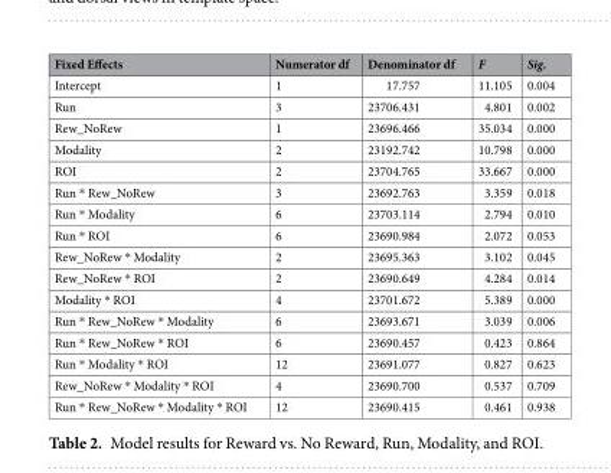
<table><thead><tr><td>Fixed Effects</td><td>Numerator df</td><td>Denominator df</td><td>F</td><td>Sig.</td></tr></thead><tbody><tr><td>Intercept</td><td>1</td><td>17.757</td><td>11.105</td><td>0.004</td></tr><tr><td>Run</td><td>3</td><td>23706.431</td><td>4.801</td><td>0.002</td></tr><tr><td>Rew_NoRew</td><td>1</td><td>23696.466</td><td>35.034</td><td>0.000</td></tr><tr><td>Modality</td><td>2</td><td>23192.742</td><td>10.798</td><td>0.000</td></tr><tr><td>ROI</td><td>2</td><td>23704.765</td><td>33.667</td><td>0.000</td></tr><tr><td>Run * Rew_NoRew</td><td>3</td><td>23692.763</td><td>3.359</td><td>0.018</td></tr><tr><td>Run * Modality</td><td>6</td><td>23703.114</td><td>2.794</td><td>0.010</td></tr><tr><td>Run * ROI</td><td>6</td><td>23690.984</td><td>2.072</td><td>0.053</td></tr><tr><td>Rew_NoRew * Modality</td><td>2</td><td>23695.363</td><td>3.102</td><td>0.045</td></tr><tr><td>Rew_NoRew * ROI</td><td>2</td><td>23690.649</td><td>4.284</td><td>0.014</td></tr><tr><td>Modality * ROI</td><td>4</td><td>23701.672</td><td>5.389</td><td>0.000</td></tr><tr><td>Run * Rew_NoRew * Modality</td><td>6</td><td>23693.671</td><td>3.039</td><td>0.006</td></tr><tr><td>Run * Rew_NoRew * ROI</td><td>6</td><td>23690.457</td><td>0.423</td><td>0.864</td></tr><tr><td>Run * Modality * ROI</td><td>12</td><td>23691.077</td><td>0.827</td><td>0.623</td></tr><tr><td>Rew_NoRew * Modality * ROI</td><td>4</td><td>23690.700</td><td>0.537</td><td>0.709</td></tr><tr><td>Run * Rew_NoRew * Modality * ROI</td><td>12</td><td>23690.415</td><td>0.461</td><td>0.938</td></tr></tbody></table>